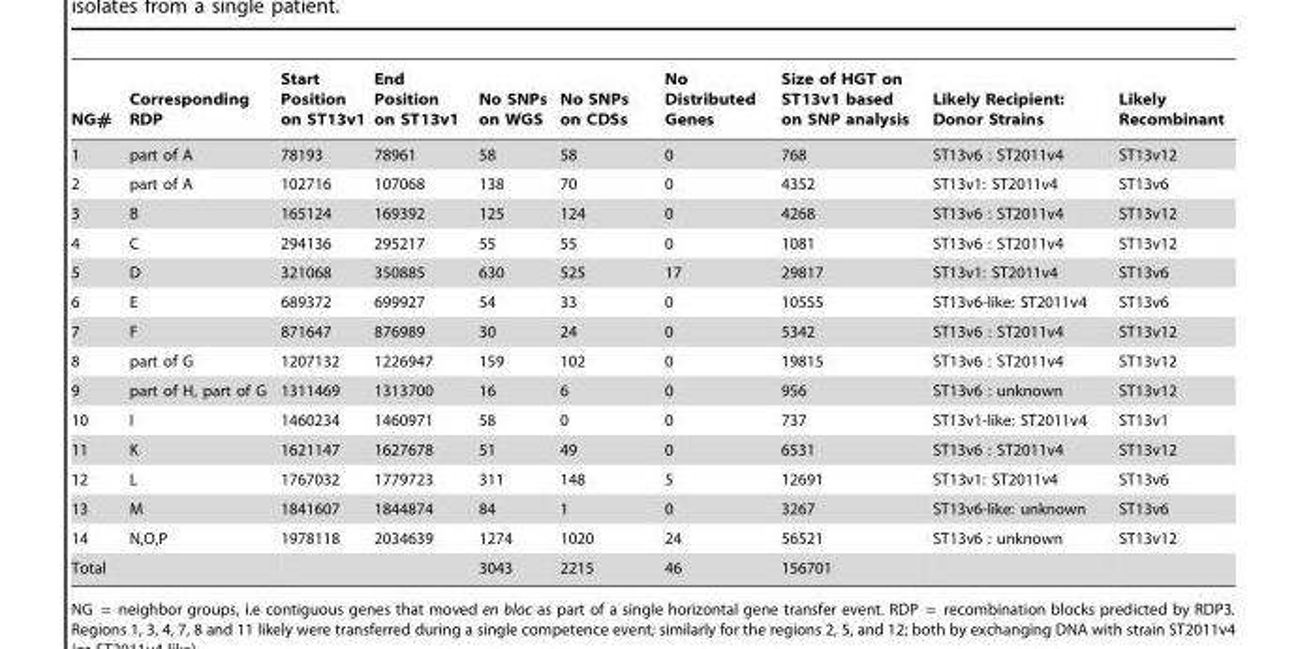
<table><thead><tr><td>NG#</td><td>Corresponding RDP</td><td>Start Position on ST13v1</td><td>End Position on ST13v1</td><td>No SNPs on WGS</td><td>No SNPs on CDSs</td><td>No Distributed Genes</td><td>Size of HGT on ST13v1 based on SNP analysis</td><td>Likely Recipient: Donor Strains</td><td>Likely Recombinant</td></tr></thead><tbody><tr><td>1</td><td>part of A</td><td>78193</td><td>78961</td><td>58</td><td>58</td><td>0</td><td>768</td><td>ST13v6 : ST2011v4</td><td>ST13v12</td></tr><tr><td>2</td><td>part of A</td><td>102716</td><td>107068</td><td>138</td><td>70</td><td>0</td><td>4352</td><td>ST13v1: ST2011v4</td><td>ST13v6</td></tr><tr><td>3</td><td>B</td><td>165124</td><td>169392</td><td>125</td><td>124</td><td>0</td><td>4268</td><td>ST13v6 : ST2011v4</td><td>ST13v12</td></tr><tr><td>4</td><td>C</td><td>294136</td><td>295217</td><td>55</td><td>55</td><td>0</td><td>1081</td><td>ST13v6 : ST2011v4</td><td>ST13v12</td></tr><tr><td>5</td><td>D</td><td>321068</td><td>350885</td><td>630</td><td>525</td><td>17</td><td>29817</td><td>ST13v1: ST2011v4</td><td>ST13v6</td></tr><tr><td>6</td><td>E</td><td>689372</td><td>699927</td><td>54</td><td>33</td><td>0</td><td>10555</td><td>ST13v6-like: ST2011v4</td><td>ST13v6</td></tr><tr><td>7</td><td>F</td><td>871647</td><td>876989</td><td>30</td><td>24</td><td>0</td><td>5342</td><td>ST13v6 : ST2011v4</td><td>ST13v12</td></tr><tr><td>8</td><td>part of G</td><td>1207132</td><td>1226947</td><td>159</td><td>102</td><td>0</td><td>19815</td><td>ST13v6 : ST2011v4</td><td>ST13v12</td></tr><tr><td>9</td><td>part of H, part of G</td><td>1311469</td><td>1313700</td><td>16</td><td>6</td><td>0</td><td>956</td><td>ST13v6 : unknown</td><td>ST13v12</td></tr><tr><td>10</td><td>I</td><td>1460234</td><td>1460971</td><td>58</td><td>0</td><td>0</td><td>737</td><td>ST13v1-like: ST2011v4</td><td>ST13v1</td></tr><tr><td>11</td><td>K</td><td>1621147</td><td>1627678</td><td>51</td><td>49</td><td>0</td><td>6531</td><td>ST13v6 : ST2011v4</td><td>ST13v12</td></tr><tr><td>12</td><td>L</td><td>1767032</td><td>1779723</td><td>311</td><td>148</td><td>5</td><td>12691</td><td>ST13v1: ST2011v4</td><td>ST13v6</td></tr><tr><td>13</td><td>M</td><td>1841607</td><td>1844874</td><td>84</td><td>1</td><td>0</td><td>3267</td><td>ST13v6-like: unknown</td><td>ST13v6</td></tr><tr><td>14</td><td>N,O,P</td><td>1978118</td><td>2034639</td><td>1274</td><td>1020</td><td>24</td><td>56521</td><td>ST13v6 : unknown</td><td>ST13v12</td></tr><tr><td>Total</td><td></td><td></td><td></td><td>3043</td><td>2215</td><td>46</td><td>156701</td><td></td><td></td></tr></tbody></table>